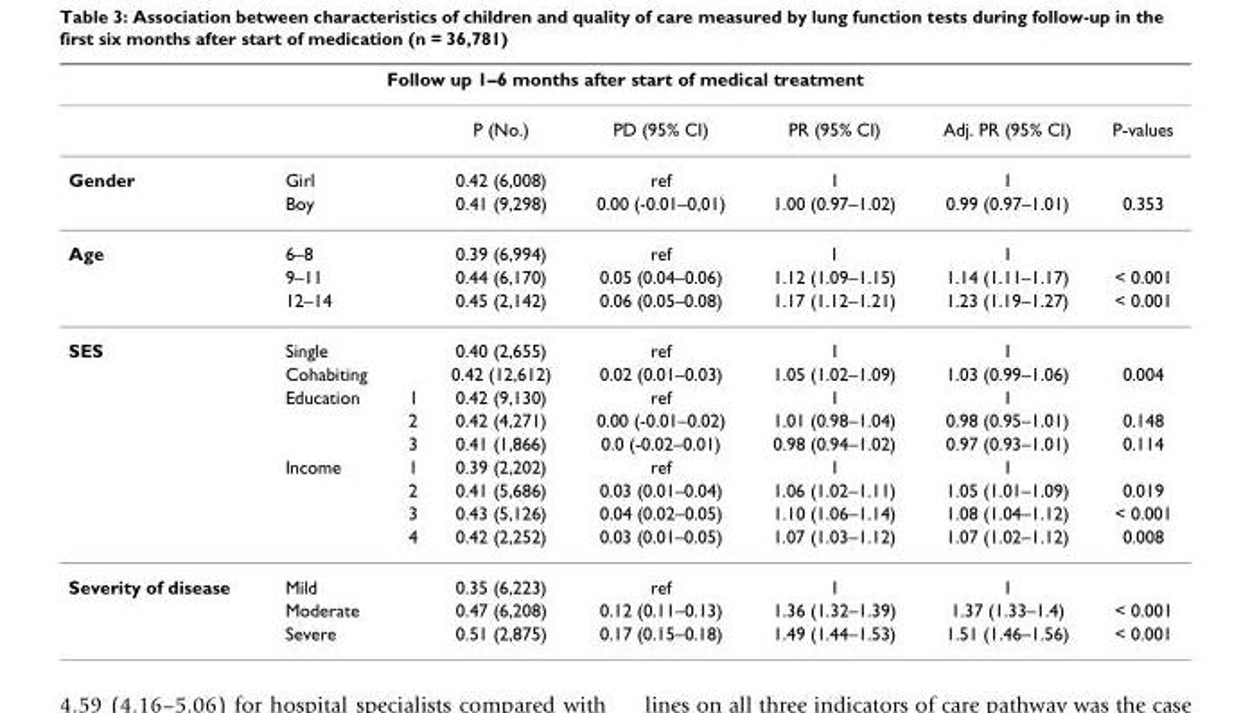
<table><thead><tr><td colspan="8">Follow up 1–6 months after start of medical treatment</td></tr><tr><td></td><td></td><td></td><td>P (No.)</td><td>PD (95% CI)</td><td>PR (95% CI)</td><td>Adj. PR (95% CI)</td><td>P-values</td></tr></thead><tbody><tr><td rowspan="2">Gender</td><td>Girl</td><td></td><td>0.42 (6,008)</td><td>ref</td><td>1</td><td>1</td><td></td></tr><tr><td>Boy</td><td></td><td>0.41 (9,298)</td><td>0.00 (-0.01–0,01)</td><td>1.00 (0.97–1.02)</td><td>0.99 (0.97–1.01)</td><td>0.353</td></tr><tr><td rowspan="3">Age</td><td>6–8</td><td></td><td>0.39 (6,994)</td><td>ref</td><td>1</td><td>1</td><td></td></tr><tr><td>9–11</td><td></td><td>0.44 (6,170)</td><td>0.05 (0.04–0.06)</td><td>1.12 (1.09–1.15)</td><td>1.14 (1.11–1.17)</td><td>&lt; 0.001</td></tr><tr><td>12–14</td><td></td><td>0.45 (2,142)</td><td>0.06 (0.05–0.08)</td><td>1.17 (1.12–1.21)</td><td>1.23 (1.19–1.27)</td><td>&lt; 0.001</td></tr><tr><td rowspan="9">SES</td><td>Single</td><td></td><td>0.40 (2,655)</td><td>ref</td><td>1</td><td>1</td><td></td></tr><tr><td>Cohabiting</td><td></td><td>0.42 (12,612)</td><td>0.02 (0.01–0.03)</td><td>1.05 (1.02–1.09)</td><td>1.03 (0.99–1.06)</td><td>0.004</td></tr><tr><td>Education</td><td>1</td><td>0.42 (9,130)</td><td>ref</td><td>1</td><td>1</td><td></td></tr><tr><td></td><td>2</td><td>0.42 (4,271)</td><td>0.00 (-0.01–0.02)</td><td>1.01 (0.98–1.04)</td><td>0.98 (0.95–1.01)</td><td>0.148</td></tr><tr><td></td><td>3</td><td>0.41 (1,866)</td><td>0.0 (-0.02–0.01)</td><td>0.98 (0.94–1.02)</td><td>0.97 (0.93–1.01)</td><td>0.114</td></tr><tr><td>Income</td><td>1</td><td>0.39 (2,202)</td><td>ref</td><td>1</td><td>1</td><td></td></tr><tr><td></td><td>2</td><td>0.41 (5,686)</td><td>0.03 (0.01–0.04)</td><td>1.06 (1.02–1.11)</td><td>1.05 (1.01–1.09)</td><td>0.019</td></tr><tr><td></td><td>3</td><td>0.43 (5,126)</td><td>0.04 (0.02–0.05)</td><td>1.10 (1.06–1.14)</td><td>1.08 (1.04–1.12)</td><td>&lt; 0.001</td></tr><tr><td></td><td>4</td><td>0.42 (2,252)</td><td>0.03 (0.01–0.05)</td><td>1.07 (1.03–1.12)</td><td>1.07 (1.02–1.12)</td><td>0.008</td></tr><tr><td rowspan="3">Severity of disease</td><td>Mild</td><td></td><td>0.35 (6,223)</td><td>ref</td><td>1</td><td>1</td><td></td></tr><tr><td>Moderate</td><td></td><td>0.47 (6,208)</td><td>0.12 (0.11–0.13)</td><td>1.36 (1.32–1.39)</td><td>1.37 (1.33–1.4)</td><td>&lt; 0.001</td></tr><tr><td>Severe</td><td></td><td>0.51 (2,875)</td><td>0.17 (0.15–0.18)</td><td>1.49 (1.44–1.53)</td><td>1.51 (1.46–1.56)</td><td>&lt; 0.001</td></tr></tbody></table>